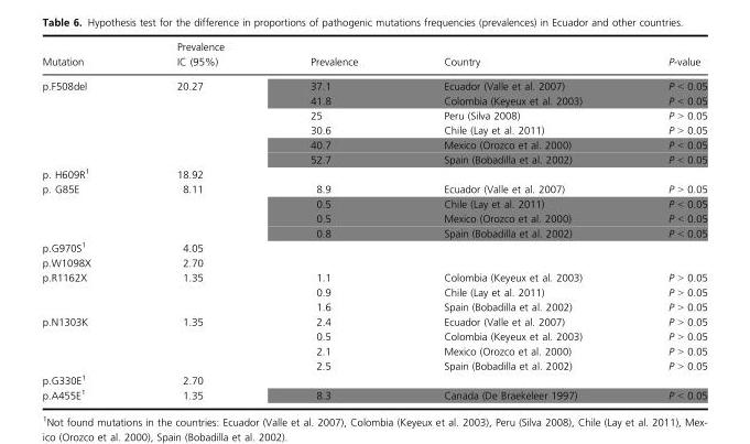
<table><thead><tr><td>Mutation</td><td>Prevalence IC (95%)</td><td>Prevalence</td><td>Country</td><td>P-value</td></tr></thead><tbody><tr><td rowspan="6">p.F508del</td><td rowspan="6">20.27</td><td>37.1</td><td>Ecuador (Valle et al. 2007)</td><td>P &lt; 0.05</td></tr><tr><td>41.8</td><td>Colombia (Keyeux et al. 2003)</td><td>P &lt; 0.05</td></tr><tr><td>25</td><td>Peru (Silva 2008)</td><td>P &gt; 0.05</td></tr><tr><td>30.6</td><td>Chile (Lay et al. 2011)</td><td>P &gt; 0.05</td></tr><tr><td>40.7</td><td>Mexico (Orozco et al. 2000)</td><td>P &lt; 0.05</td></tr><tr><td>52.7</td><td>Spain (Bobadilla et al. 2002)</td><td>P &lt; 0.05</td></tr><tr><td>p. H609R1</td><td>18.92</td><td></td><td></td><td></td></tr><tr><td rowspan="4">p. G85E</td><td rowspan="4">8.11</td><td>8.9</td><td>Ecuador (Valle et al. 2007)</td><td>P &gt; 0.05</td></tr><tr><td>0.5</td><td>Chile (Lay et al. 2011)</td><td>P &lt; 0.05</td></tr><tr><td>0.5</td><td>Mexico (Orozco et al. 2000)</td><td>P &lt; 0.05</td></tr><tr><td>0.8</td><td>Spain (Bobadilla et al. 2002)</td><td>P &lt; 0.05</td></tr><tr><td>p.G970S1</td><td>4.05</td><td></td><td></td><td></td></tr><tr><td>p.W1098X</td><td>2.70</td><td></td><td></td><td></td></tr><tr><td rowspan="3">p.R1162X</td><td rowspan="3">1.35</td><td>1.1</td><td>Colombia (Keyeux et al. 2003)</td><td>P &gt; 0.05</td></tr><tr><td>0.9</td><td>Chile (Lay et al. 2011)</td><td>P &gt; 0.05</td></tr><tr><td>1.6</td><td>Spain (Bobadilla et al. 2002)</td><td>P &gt; 0.05</td></tr><tr><td rowspan="4">p.N1303K</td><td rowspan="4">1.35</td><td>2.4</td><td>Ecuador (Valle et al. 2007)</td><td>P &gt; 0.05</td></tr><tr><td>0.5</td><td>Colombia (Keyeux et al. 2003)</td><td>P &gt; 0.05</td></tr><tr><td>2.1</td><td>Mexico (Orozco et al. 2000)</td><td>P &gt; 0.05</td></tr><tr><td>2.5</td><td>Spain (Bobadilla et al. 2002)</td><td>P &gt; 0.05</td></tr><tr><td>p.G330E1</td><td>2.70</td><td></td><td></td><td></td></tr><tr><td>p.A455E1</td><td>1.35</td><td>8.3</td><td>Canada (De Braekeleer 1997)</td><td>P &lt; 0.05</td></tr></tbody></table>